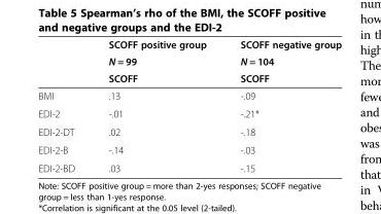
<table><thead><tr><td rowspan="3"></td><td rowspan="3">SCOFF positive group N = 99 SCOFF</td><td rowspan="3">SCOFF negative group N = 104 SCOFF</td></tr><tr></tr><tr></tr></thead><tbody><tr><td>BMI</td><td>.13</td><td>-.09</td></tr><tr><td>EDI-2</td><td>-.01</td><td>-.21*</td></tr><tr><td>EDI-2-DT</td><td>.02</td><td>-.18</td></tr><tr><td>EDI-2-B</td><td>-.14</td><td>-.03</td></tr><tr><td>EDI-2-BD</td><td>.03</td><td>-.15</td></tr></tbody></table>